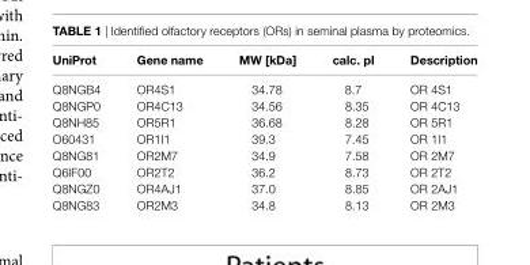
<table><thead><tr><td>UniProt</td><td>gene name</td><td>MW [kDa]</td><td>calc. pi</td><td>Description</td></tr></thead><tbody><tr><td>Q8NGB4</td><td>OR4S1</td><td>34.78</td><td>8.7</td><td>OR 4S1</td></tr><tr><td>Q8NGP0</td><td>OR4C13</td><td>34.56</td><td>8.35</td><td>OR 4C13</td></tr><tr><td>Q8NH85</td><td>OR5R1</td><td>36.68</td><td>8.28</td><td>OR 5R1</td></tr><tr><td>O60431</td><td>OR1I1</td><td>39.3</td><td>7.45</td><td>OR 1I1</td></tr><tr><td>Q8NG81</td><td>OR2M7</td><td>34.9</td><td>7.58</td><td>OR 2M7</td></tr><tr><td>Q6IF00</td><td>OR2T2</td><td>36.2</td><td>8.73</td><td>OR 2T2</td></tr><tr><td>Q8NGZ0</td><td>OR4AJ1</td><td>37.0</td><td>8.85</td><td>OR 2AJ1</td></tr><tr><td>Q8NG83</td><td>OR2M3</td><td>34.8</td><td>8.13</td><td>OR 2M3</td></tr></tbody></table>